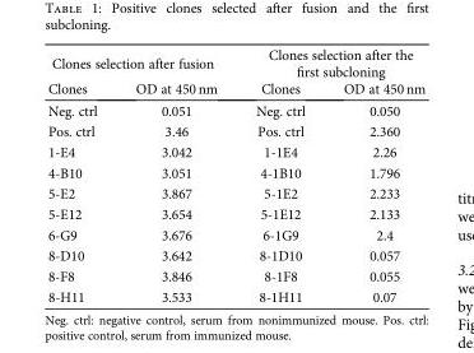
<table><thead><tr><td colspan="2">Clones selection after fusion</td><td colspan="2">Clones selection after the first subcloning</td></tr><tr><td>Clones</td><td>OD at 450 nm</td><td>Clones</td><td>OD at 450 nm</td></tr></thead><tbody><tr><td>Neg. ctrl</td><td>0.051</td><td>Neg. ctrl</td><td>0.050</td></tr><tr><td>Pos. ctrl</td><td>3.46</td><td>Pos. ctrl</td><td>2.360</td></tr><tr><td>1-E4</td><td>3.042</td><td>1-1E4</td><td>2.26</td></tr><tr><td>4-B10</td><td>3.051</td><td>4-1B10</td><td>1.796</td></tr><tr><td>5-E2</td><td>3.867</td><td>5-1E2</td><td>2.233</td></tr><tr><td>5-E12</td><td>3.654</td><td>5-1E12</td><td>2.133</td></tr><tr><td>6-G9</td><td>3.676</td><td>6-1G9</td><td>2.4</td></tr><tr><td>8-D10</td><td>3.642</td><td>8-1D10</td><td>0.057</td></tr><tr><td>8-F8</td><td>3.846</td><td>8-1F8</td><td>0.055</td></tr><tr><td>8-H11</td><td>3.533</td><td>8-1H11</td><td>0.07</td></tr></tbody></table>